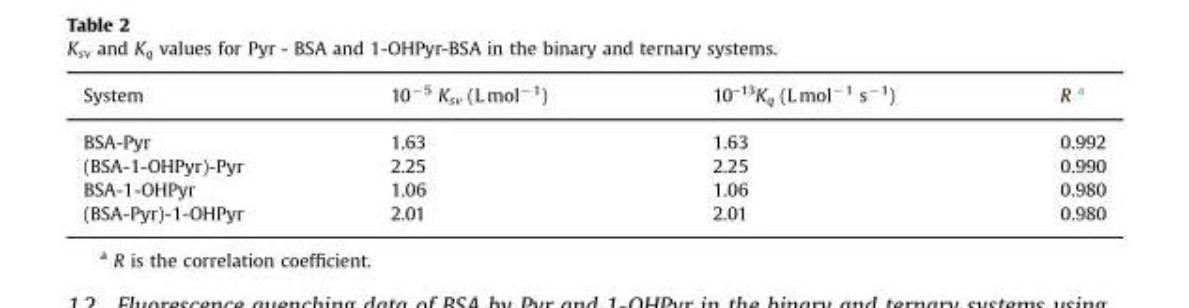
<table><thead><tr><td>System</td><td>10<sup>−5</sup> K<sub>sv</sub> (L mol<sup>−1</sup>)</td><td>10<sup>–13</sup>K<sub>q</sub> (L mol<sup>−1</sup> s<sup>−1</sup>)</td><td>R <sup>a</sup></td></tr></thead><tbody><tr><td>BSA-Pyr</td><td>1.63</td><td>1.63</td><td>0.992</td></tr><tr><td>(BSA-1-OHPyr)-Pyr</td><td>2.25</td><td>2.25</td><td>0.990</td></tr><tr><td>BSA-1-OHPyr</td><td>1.06</td><td>1.06</td><td>0.980</td></tr><tr><td>(BSA-Pyr)-1-OHPyr</td><td>2.01</td><td>2.01</td><td>0.980</td></tr></tbody></table>